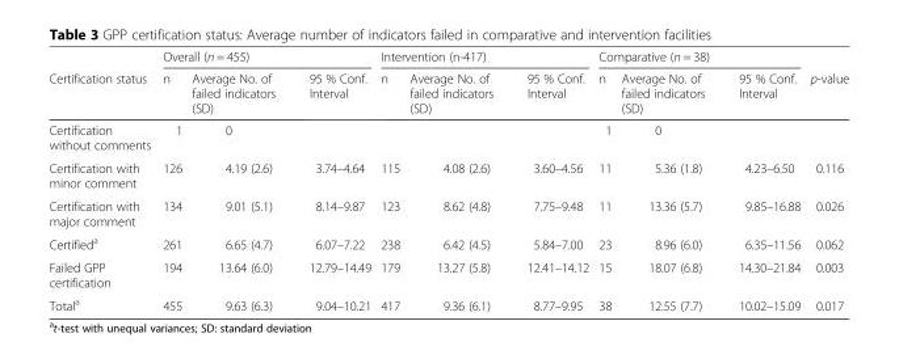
<table><thead><tr><td rowspan="2">Certification status</td><td colspan="3">Overall (n = 455)</td><td colspan="3">Intervention (n-417)</td><td colspan="3">Comparative (n = 38)</td><td rowspan="2">p-value</td></tr><tr><td>n</td><td>Average No. of failed indicators (SD)</td><td>95 % Conf. Interval</td><td>n</td><td>Average No. of failed indicators (SD)</td><td>95 % Conf. Interval</td><td>n</td><td>Average No. of failed indicators (SD)</td><td>95 % Conf. Interval</td></tr></thead><tbody><tr><td>Certification without comments</td><td>1</td><td>0</td><td></td><td></td><td></td><td></td><td>1</td><td>0</td><td></td><td></td></tr><tr><td>Certification with minor comment</td><td>126</td><td>4.19 (2.6)</td><td>3.74–4.64</td><td>115</td><td>4.08 (2.6)</td><td>3.60–4.56</td><td>11</td><td>5.36 (1.8)</td><td>4.23–6.50</td><td>0.116</td></tr><tr><td>Certification with major comment</td><td>134</td><td>9.01 (5.1)</td><td>8.14–9.87</td><td>123</td><td>8.62 (4.8)</td><td>7.75–9.48</td><td>11</td><td>13.36 (5.7)</td><td>9.85–16.88</td><td>0.026</td></tr><tr><td>Certified<sup>a</sup></td><td>261</td><td>6.65 (4.7)</td><td>6.07–7.22</td><td>238</td><td>6.42 (4.5)</td><td>5.84–7.00</td><td>23</td><td>8.96 (6.0)</td><td>6.35–11.56</td><td>0.062</td></tr><tr><td>Failed GPP certification</td><td>194</td><td>13.64 (6.0)</td><td>12.79–14.49</td><td>179</td><td>13.27 (5.8)</td><td>12.41–14.12</td><td>15</td><td>18.07 (6.8)</td><td>14.30–21.84</td><td>0.003</td></tr><tr><td>Total<sup>a</sup></td><td>455</td><td>9.63 (6.3)</td><td>9.04–10.21</td><td>417</td><td>9.36 (6.1)</td><td>8.77–9.95</td><td>38</td><td>12.55 (7.7)</td><td>10.02–15.09</td><td>0.017</td></tr></tbody></table>